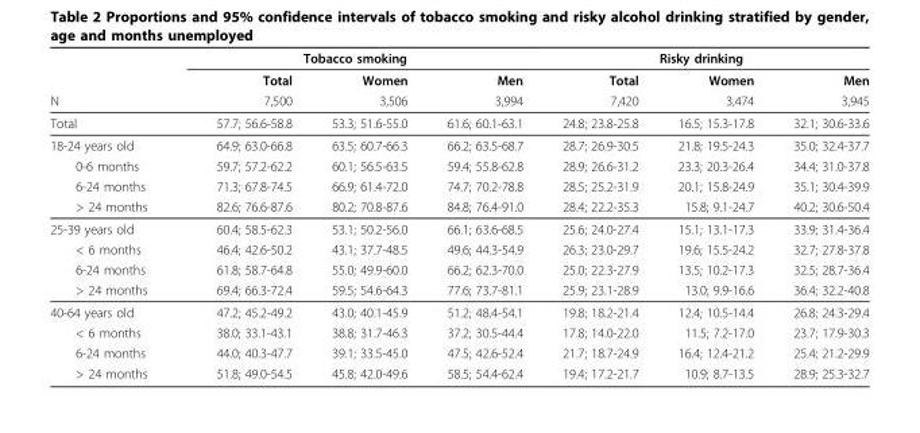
<table><thead><tr><td rowspan="3">N</td><td colspan="3">Tobacco smoking</td><td colspan="3">Risky drinking</td></tr><tr><td rowspan="2">Total 7,500</td><td rowspan="2">Women 3,506</td><td rowspan="2">Men 3,994</td><td rowspan="2">Total 7,420</td><td rowspan="2">Women 3,474</td><td rowspan="2">Men 3,945</td></tr><tr></tr></thead><tbody><tr><td>Total</td><td>57.7; 56.6-58.8</td><td>53.3; 51.6-55.0</td><td>61.6; 60.1-63.1</td><td>24.8; 23.8-25.8</td><td>16.5; 15.3-17.8</td><td>32.1; 30.6-33.6</td></tr><tr><td>18-24 years old</td><td>64.9; 63.0-66.8</td><td>63.5; 60.7-66.3</td><td>66.2; 63.5-68.7</td><td>28.7; 26.9-30.5</td><td>21.8; 19.5-24.3</td><td>35.0; 32.4-37.7</td></tr><tr><td>0-6 months</td><td>59.7; 57.2-62.2</td><td>60.1; 56.5-63.5</td><td>59.4; 55.8-62.8</td><td>28.9; 26.6-31.2</td><td>23.3; 20.3-26.4</td><td>34.4; 31.0-37.8</td></tr><tr><td>6-24 months</td><td>71.3; 67.8-74.5</td><td>66.9; 61.4-72.0</td><td>74.7; 70.2-78.8</td><td>28.5; 25.2-31.9</td><td>20.1; 15.8-24.9</td><td>35.1; 30.4-39.9</td></tr><tr><td>&gt; 24 months</td><td>82.6; 76.6-87.6</td><td>80.2; 70.8-87.6</td><td>84.8; 76.4-91.0</td><td>28.4; 22.2-35.3</td><td>15.8; 9.1-24.7</td><td>40.2; 30.6-50.4</td></tr><tr><td>25-39 years old</td><td>60.4; 58.5-62.3</td><td>53.1; 50.2-56.0</td><td>66.1; 63.6-68.5</td><td>25.6; 24.0-27.4</td><td>15.1; 13.1-17.3</td><td>33.9; 31.4-36.4</td></tr><tr><td>&lt; 6 months</td><td>46.4; 42.6-50.2</td><td>43.1; 37.7-48.5</td><td>49.6; 44.3-54.9</td><td>26.3; 23.0-29.7</td><td>19.6; 15.5-24.2</td><td>32.7; 27.8-37.8</td></tr><tr><td>6-24 months</td><td>61.8; 58.7-64.8</td><td>55.0; 49.9-60.0</td><td>66.2; 62.3-70.0</td><td>25.0; 22.3-27.9</td><td>13.5; 10.2-17.3</td><td>32.5; 28.7-36.4</td></tr><tr><td>&gt; 24 months</td><td>69.4; 66.3-72.4</td><td>59.5; 54.6-64.3</td><td>77.6; 73.7-81.1</td><td>25.9; 23.1-28.9</td><td>13.0; 9.9-16.6</td><td>36.4; 32.2-40.8</td></tr><tr><td>40-64 years old</td><td>47.2; 45.2-49.2</td><td>43.0; 40.1-45.9</td><td>51.2; 48.4-54.1</td><td>19.8; 18.2-21.4</td><td>12.4; 10.5-14.4</td><td>26.8; 24.3-29.4</td></tr><tr><td>&lt; 6 months</td><td>38.0; 33.1-43.1</td><td>38.8; 31.7-46.3</td><td>37.2; 30.5-44.4</td><td>17.8; 14.0-22.0</td><td>11.5; 7.2-17.0</td><td>23.7; 17.9-30.3</td></tr><tr><td>6-24 months</td><td>44.0; 40.3-47.7</td><td>39.1; 33.5-45.0</td><td>47.5; 42.6-52.4</td><td>21.7; 18.7-24.9</td><td>16.4; 12.4-21.2</td><td>25.4; 21.2-29.9</td></tr><tr><td>&gt; 24 months</td><td>51.8; 49.0-54.5</td><td>45.8; 42.0-49.6</td><td>58.5; 54.4-62.4</td><td>19.4; 17.2-21.7</td><td>10.9; 8.7-13.5</td><td>28.9; 25.3-32.7</td></tr></tbody></table>